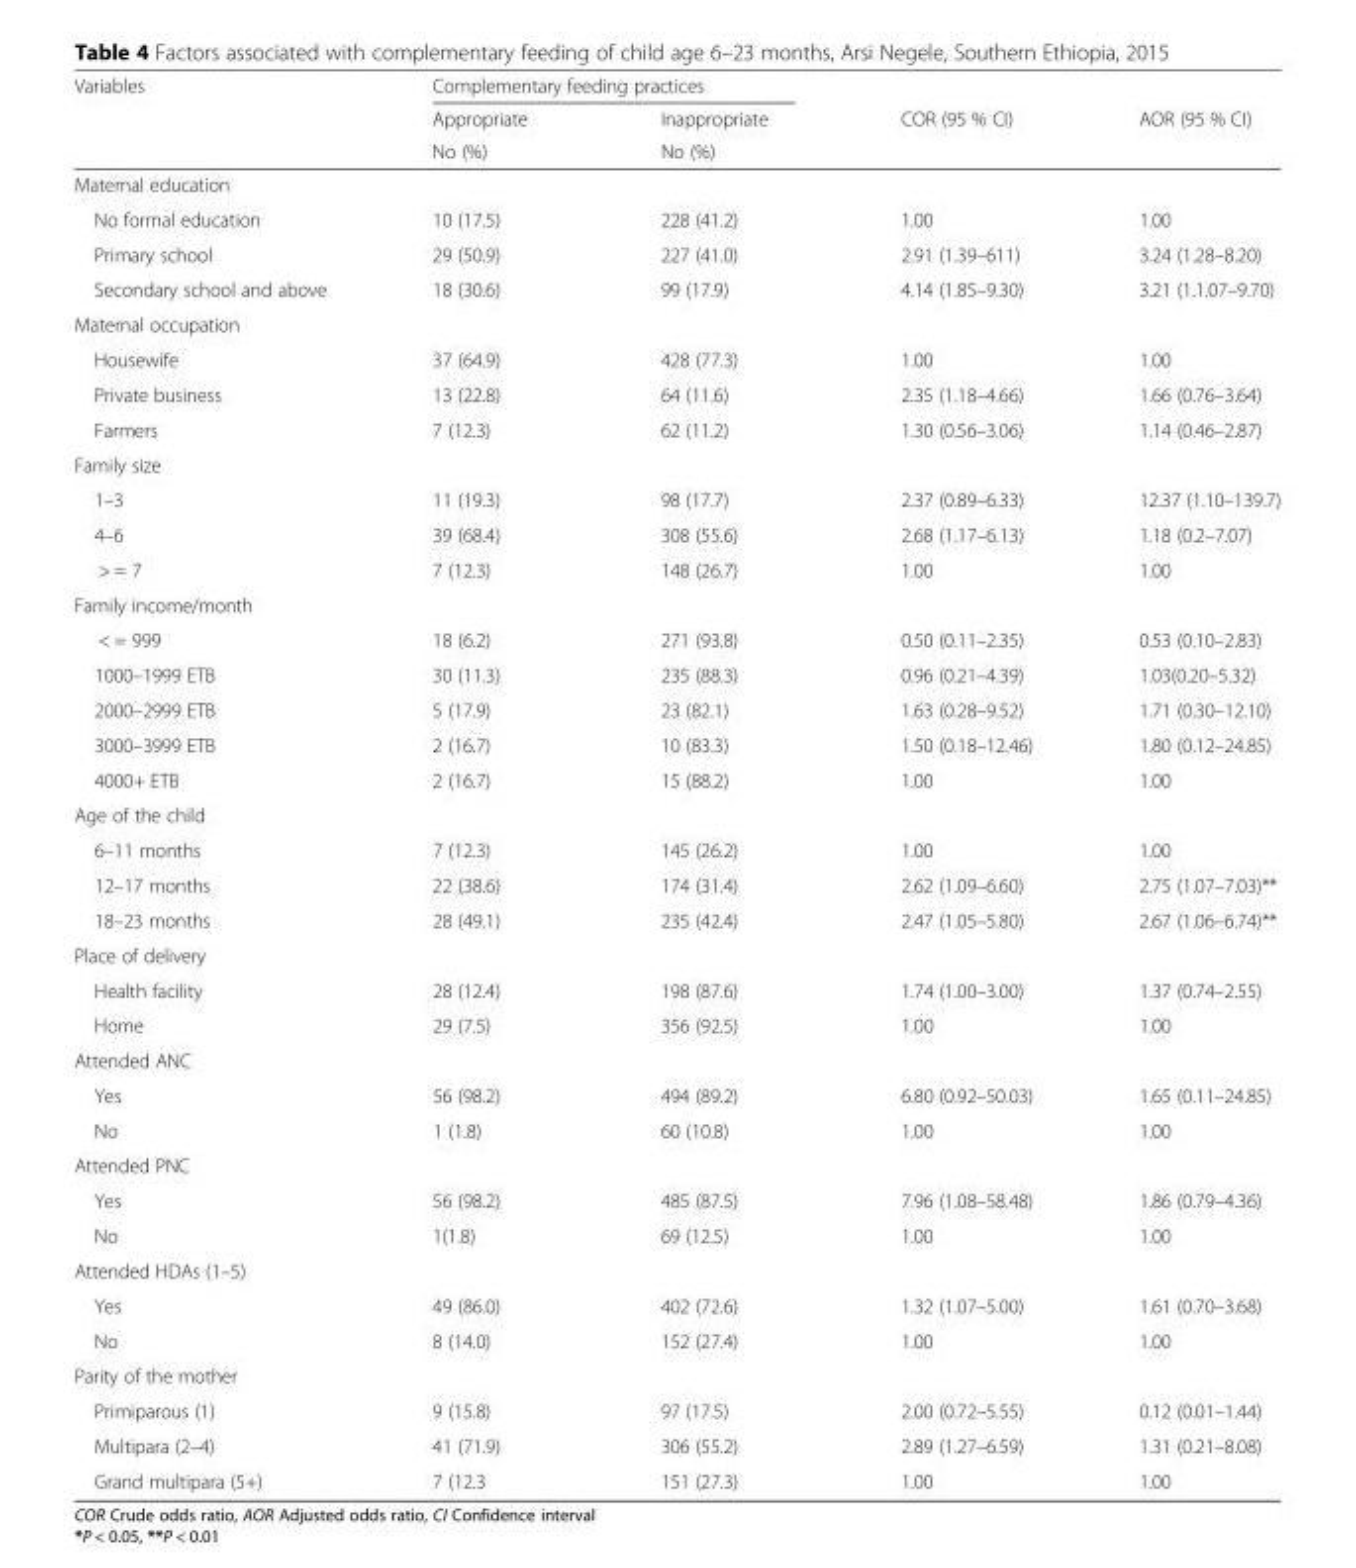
<table><thead><tr><td rowspan="3">Variables</td><td colspan="2">Complementary feeding practices</td><td rowspan="3">COR (95 % CI)</td><td rowspan="3">AOR (95 % CI)</td></tr><tr><td rowspan="2">Appropriate No (%)</td><td rowspan="2">Inappropriate No (%)</td></tr><tr></tr></thead><tbody><tr><td colspan="5">Maternal education</td></tr><tr><td>No formal education</td><td>10 (17.5)</td><td>228 (41.2)</td><td>1.00</td><td>1.00</td></tr><tr><td>Primary school</td><td>29 (50.9)</td><td>227 (41.0)</td><td>2.91 (1.39–611)</td><td>3.24 (1.28–8.20)</td></tr><tr><td>Secondary school and above</td><td>18 (30.6)</td><td>99 (17.9)</td><td>4.14 (1.85–9.30)</td><td>3.21 (1.1.07–9.70)</td></tr><tr><td colspan="5">Maternal occupation</td></tr><tr><td>Housewife</td><td>37 (64.9)</td><td>428 (77.3)</td><td>1.00</td><td>1.00</td></tr><tr><td>Private business</td><td>13 (22.8)</td><td>64 (11.6)</td><td>2.35 (1.18–4.66)</td><td>1.66 (0.76–3.64)</td></tr><tr><td>Farmers</td><td>7 (12.3)</td><td>62 (11.2)</td><td>1.30 (0.56–3.06)</td><td>1.14 (0.46–2.87)</td></tr><tr><td colspan="5">Family size</td></tr><tr><td>1–3</td><td>11 (19.3)</td><td>98 (17.7)</td><td>2.37 (0.89–6.33)</td><td>12.37 (1.10–139.7)</td></tr><tr><td>4–6</td><td>39 (68.4)</td><td>308 (55.6)</td><td>2.68 (1.17–6.13)</td><td>1.18 (0.2–7.07)</td></tr><tr><td>&gt; = 7</td><td>7 (12.3)</td><td>148 (26.7)</td><td>1.00</td><td>1.00</td></tr><tr><td colspan="5">Family income/month</td></tr><tr><td>&lt; = 999</td><td>18 (6.2)</td><td>271 (93.8)</td><td>0.50 (0.11–2.35)</td><td>0.53 (0.10–2.83)</td></tr><tr><td>1000–1999 ETB</td><td>30 (11.3)</td><td>235 (88.3)</td><td>0.96 (0.21–4.39)</td><td>1.03(0.20–5.32)</td></tr><tr><td>2000–2999 ETB</td><td>5 (17.9)</td><td>23 (82.1)</td><td>1.63 (0.28–9.52)</td><td>1.71 (0.30–12.10)</td></tr><tr><td>3000–3999 ETB</td><td>2 (16.7)</td><td>10 (83.3)</td><td>1.50 (0.18–12.46)</td><td>1.80 (0.12–24.85)</td></tr><tr><td>4000+ ETB</td><td>2 (16.7)</td><td>15 (88.2)</td><td>1.00</td><td>1.00</td></tr><tr><td colspan="5">Age of the child</td></tr><tr><td>6–11 months</td><td>7 (12.3)</td><td>145 (26.2)</td><td>1.00</td><td>1.00</td></tr><tr><td>12–17 months</td><td>22 (38.6)</td><td>174 (31.4)</td><td>2.62 (1.09–6.60)</td><td>2.75 (1.07–7.03)**</td></tr><tr><td>18–23 months</td><td>28 (49.1)</td><td>235 (42.4)</td><td>2.47 (1.05–5.80)</td><td>2.67 (1.06–6.74)**</td></tr><tr><td colspan="5">Place of delivery</td></tr><tr><td>Health facility</td><td>28 (12.4)</td><td>198 (87.6)</td><td>1.74 (1.00–3.00)</td><td>1.37 (0.74–2.55)</td></tr><tr><td>Home</td><td>29 (7.5)</td><td>356 (92.5)</td><td>1.00</td><td>1.00</td></tr><tr><td colspan="5">Attended ANC</td></tr><tr><td>Yes</td><td>56 (98.2)</td><td>494 (89.2)</td><td>6.80 (0.92–50.03)</td><td>1.65 (0.11–24.85)</td></tr><tr><td>No</td><td>1 (1.8)</td><td>60 (10.8)</td><td>1.00</td><td>1.00</td></tr><tr><td colspan="5">Attended PNC</td></tr><tr><td>Yes</td><td>56 (98.2)</td><td>485 (87.5)</td><td>7.96 (1.08–58.48)</td><td>1.86 (0.79–4.36)</td></tr><tr><td>No</td><td>1(1.8)</td><td>69 (12.5)</td><td>1.00</td><td>1.00</td></tr><tr><td colspan="5">Attended HDAs (1–5)</td></tr><tr><td>Yes</td><td>49 (86.0)</td><td>402 (72.6)</td><td>1.32 (1.07–5.00)</td><td>1.61 (0.70–3.68)</td></tr><tr><td>No</td><td>8 (14.0)</td><td>152 (27.4)</td><td>1.00</td><td>1.00</td></tr><tr><td colspan="5">Parity of the mother</td></tr><tr><td>Primiparous (1)</td><td>9 (15.8)</td><td>97 (17.5)</td><td>2.00 (0.72–5.55)</td><td>0.12 (0.01–1.44)</td></tr><tr><td>Multipara (2–4)</td><td>41 (71.9)</td><td>306 (55.2)</td><td>2.89 (1.27–6.59)</td><td>1.31 (0.21–8.08)</td></tr><tr><td>Grand multipara (5+)</td><td>7 (12.3</td><td>151 (27.3)</td><td>1.00</td><td>1.00</td></tr></tbody></table>